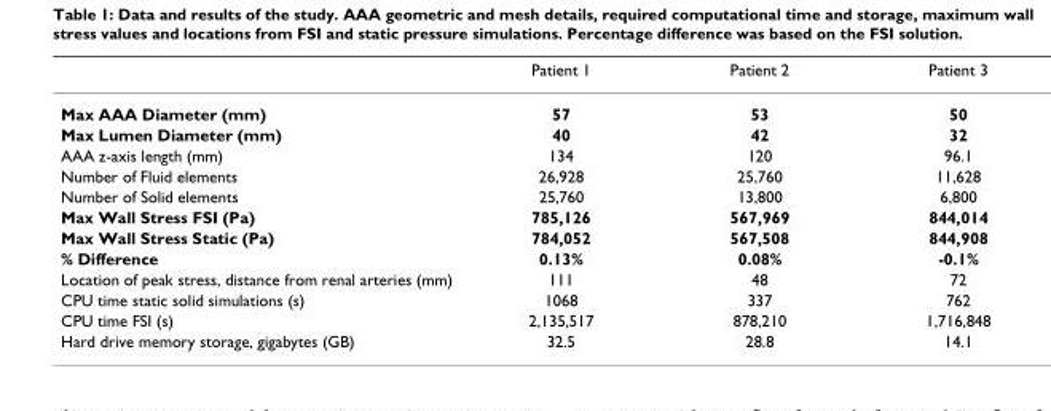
<table><thead><tr><td></td><td>Patient 1</td><td>Patient 2</td><td>Patient 3</td></tr></thead><tbody><tr><td>Max AAA Diameter (mm)</td><td>57</td><td>53</td><td>50</td></tr><tr><td>Max Lumen Diameter (mm)</td><td>40</td><td>42</td><td>32</td></tr><tr><td>AAA z-axis length (mm)</td><td>134</td><td>120</td><td>96.1</td></tr><tr><td>Number of Fluid elements</td><td>26,928</td><td>25,760</td><td>11,628</td></tr><tr><td>Number of Solid elements</td><td>25,760</td><td>13,800</td><td>6,800</td></tr><tr><td>Max Wall Stress FSI (Pa)</td><td>785,126</td><td>567,969</td><td>844,014</td></tr><tr><td>Max Wall Stress Static (Pa)</td><td>784,052</td><td>567,508</td><td>844,908</td></tr><tr><td>% Difference</td><td>0.13%</td><td>0.08%</td><td>-0.1%</td></tr><tr><td>Location of peak stress, distance from renal arteries (mm)</td><td>111</td><td>48</td><td>72</td></tr><tr><td>CPU time static solid simulations (s)</td><td>1068</td><td>337</td><td>762</td></tr><tr><td>CPU time FSI (s)</td><td>2,135,517</td><td>878,210</td><td>1,716,848</td></tr><tr><td>Hard drive memory storage, gigabytes (GB)</td><td>32.5</td><td>28.8</td><td>14.1</td></tr></tbody></table>